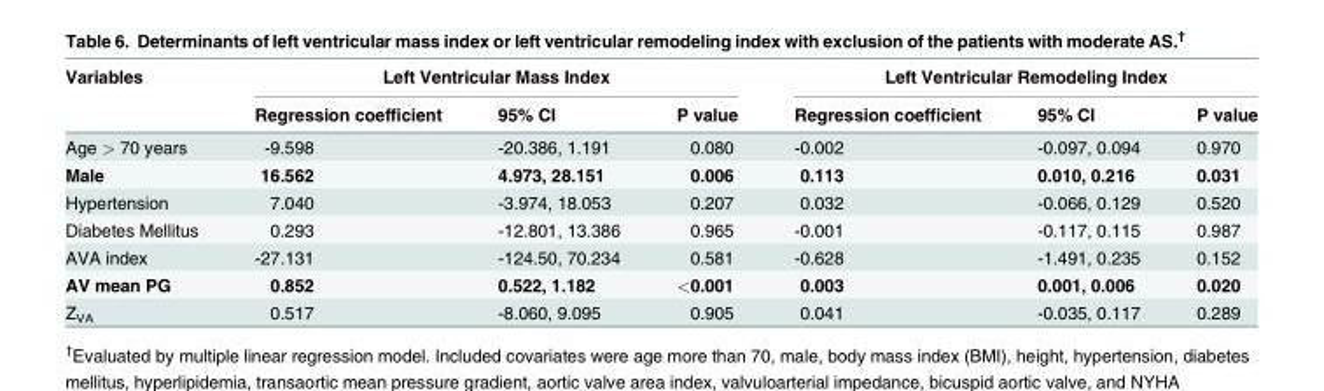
<table><thead><tr><td rowspan="2">Variables</td><td colspan="3">Left Ventricular Mass Index</td><td colspan="3">Left Ventricular Remodeling Index</td></tr><tr><td>Regression coefficient</td><td>95% CI</td><td>P value</td><td>Regression coefficient</td><td>95% CI</td><td>P value</td></tr></thead><tbody><tr><td>Age &gt; 70 years</td><td>-9.598</td><td>-20.386, 1.191</td><td>0.080</td><td>-0.002</td><td>-0.097, 0.094</td><td>0.970</td></tr><tr><td>Male</td><td>16.562</td><td>4.973, 28.151</td><td>0.006</td><td>0.113</td><td>0.010, 0.216</td><td>0.031</td></tr><tr><td>Hypertension</td><td>7.040</td><td>-3.974, 18.053</td><td>0.207</td><td>0.032</td><td>-0.066, 0.129</td><td>0.520</td></tr><tr><td>Diabetes Mellitus</td><td>0.293</td><td>-12.801, 13.386</td><td>0.965</td><td>-0.001</td><td>-0.117, 0.115</td><td>0.987</td></tr><tr><td>AVA index</td><td>-27.131</td><td>-124.50, 70.234</td><td>0.581</td><td>-0.628</td><td>-1.491, 0.235</td><td>0.152</td></tr><tr><td>AV mean PG</td><td>0.852</td><td>0.522, 1.182</td><td>&lt;0.001</td><td>0.003</td><td>0.001, 0.006</td><td>0.020</td></tr><tr><td>Z<sub>VA</sub></td><td>0.517</td><td>-8.060, 9.095</td><td>0.905</td><td>0.041</td><td>-0.035, 0.117</td><td>0.289</td></tr></tbody></table>